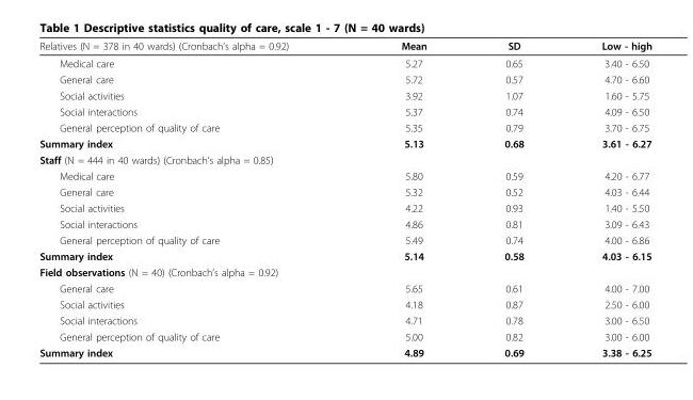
<table><thead><tr><td>Relatives (N = 378 in 40 wards) (Cronbach’s alpha = 0.92)</td><td>Mean</td><td>SD</td><td>Low - high</td></tr></thead><tbody><tr><td>Medical care</td><td>5.27</td><td>0.65</td><td>3.40 - 6.50</td></tr><tr><td>General care</td><td>5.72</td><td>0.57</td><td>4.70 - 6.60</td></tr><tr><td>Social activities</td><td>3.92</td><td>1.07</td><td>1.60 - 5.75</td></tr><tr><td>Social interactions</td><td>5.37</td><td>0.74</td><td>4.09 - 6.50</td></tr><tr><td>General perception of quality of care</td><td>5.35</td><td>0.79</td><td>3.70 - 6.75</td></tr><tr><td>Summary index</td><td>5.13</td><td>0.68</td><td>3.61 - 6.27</td></tr><tr><td colspan="4">Staff (N = 444 in 40 wards) (Cronbach’s alpha = 0.85)</td></tr><tr><td>Medical care</td><td>5.80</td><td>0.59</td><td>4.20 - 6.77</td></tr><tr><td>General care</td><td>5.32</td><td>0.52</td><td>4.03 - 6.44</td></tr><tr><td>Social activities</td><td>4.22</td><td>0.93</td><td>1.40 - 5.50</td></tr><tr><td>Social interactions</td><td>4.86</td><td>0.81</td><td>3.09 - 6.43</td></tr><tr><td>General perception of quality of care</td><td>5.49</td><td>0.74</td><td>4.00 - 6.86</td></tr><tr><td>Summary index</td><td>5.14</td><td>0.58</td><td>4.03 - 6.15</td></tr><tr><td colspan="4">Field observations (N = 40) (Cronbach’s alpha = 0.92)</td></tr><tr><td>General care</td><td>5.65</td><td>0.61</td><td>4.00 - 7.00</td></tr><tr><td>Social activities</td><td>4.18</td><td>0.87</td><td>2.50 - 6.00</td></tr><tr><td>Social interactions</td><td>4.71</td><td>0.78</td><td>3.00 - 6.50</td></tr><tr><td>General perception of quality of care</td><td>5.00</td><td>0.82</td><td>3.00 - 6.00</td></tr><tr><td>Summary index</td><td>4.89</td><td>0.69</td><td>3.38 - 6.25</td></tr></tbody></table>